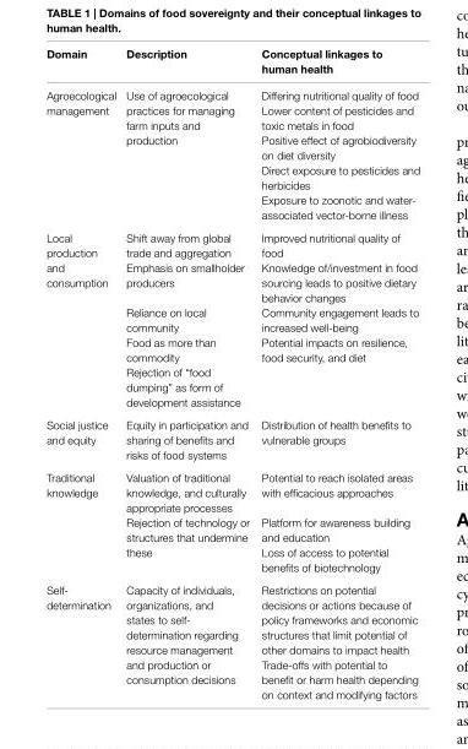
<table><thead><tr><td>Domain</td><td>Description</td><td>Conceptual linkages to human health</td></tr></thead><tbody><tr><td rowspan="5">Agroecological management</td><td rowspan="5">Use of agroecological practices for managing farm inputs and production</td><td>Differing nutritional quality of food</td></tr><tr><td>Lower content of pesticides and toxic metals in food</td></tr><tr><td>Positive effect of agrobiodiversity on diet diversity</td></tr><tr><td>Direct exposure to pesticides and herbicides</td></tr><tr><td>Exposure to zoonotic and water- associated vector-borne illness</td></tr><tr><td rowspan="5">Local production and consumption</td><td>Shift away from global trade and aggregation</td><td>Improved nutritional quality of food</td></tr><tr><td>Emphasis on smallholder producers</td><td>Knowledge of/investment in food sourcing leads to positive dietary behavior changes</td></tr><tr><td>Reliance on local community</td><td>Community engagement leads to increased well-being</td></tr><tr><td>Food as more than commodity</td><td rowspan="2">Potential impacts on resilience, food security, and diet</td></tr><tr><td>Rejection of “food dumping” as form of development assistance</td></tr><tr><td>Social justice and equity</td><td>Equity in participation and sharing of benefits and risks of food systems</td><td>Distribution of health benefits to vulnerable groups</td></tr><tr><td rowspan="3">Traditional knowledge</td><td>Valuation of traditional knowledge, and culturally appropriate processes</td><td>Potential to reach isolated areas with efficacious approaches</td></tr><tr><td rowspan="2">Rejection of technology or structures that undermine these</td><td>Platform for awareness building and education</td></tr><tr><td>Loss of access to potential benefits of biotechnology</td></tr><tr><td rowspan="2">Self- determination</td><td rowspan="2">Capacity of individuals, organizations, and states to self- determination regarding resource management and production or consumption decisions</td><td>Restrictions on potential decisions or actions because of policy frameworks and economic structures that limit potential of other domains to impact health</td></tr><tr><td>Trade-offs with potential to benefit or harm health depending on context and modifying factors</td></tr></tbody></table>